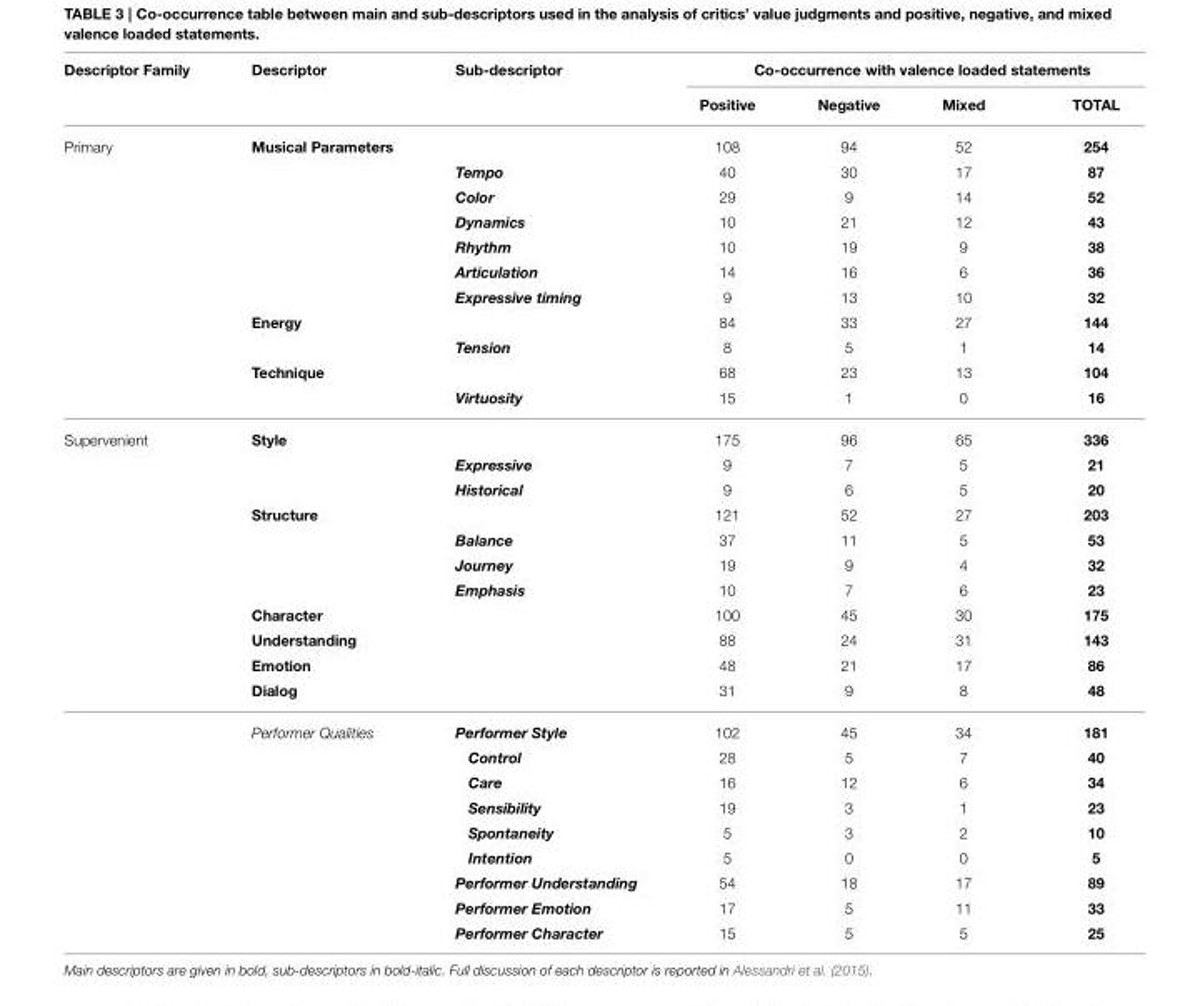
<table><thead><tr><td rowspan="2">Descriptor Family</td><td rowspan="2">Descriptor</td><td rowspan="2">Sub-descriptor</td><td colspan="4">Co-occurrence with valence loaded statements</td></tr><tr><td>Positive</td><td>Negative</td><td>Mixed</td><td>TOTAL</td></tr></thead><tbody><tr><td rowspan="11">Primary</td><td>Musical Parameters</td><td></td><td>108</td><td>94</td><td>52</td><td>254</td></tr><tr><td></td><td>Tempo</td><td>40</td><td>30</td><td>17</td><td>87</td></tr><tr><td></td><td>Color</td><td>29</td><td>9</td><td>14</td><td>52</td></tr><tr><td></td><td>Dynamics</td><td>10</td><td>21</td><td>12</td><td>43</td></tr><tr><td></td><td>Rhythm</td><td>10</td><td>19</td><td>9</td><td>38</td></tr><tr><td></td><td>Articulation</td><td>14</td><td>16</td><td>6</td><td>36</td></tr><tr><td></td><td>Expressive timing</td><td>9</td><td>13</td><td>10</td><td>32</td></tr><tr><td>Energy</td><td></td><td>84</td><td>33</td><td>27</td><td>144</td></tr><tr><td></td><td>Tension</td><td>8</td><td>5</td><td>1</td><td>14</td></tr><tr><td>Technique</td><td></td><td>68</td><td>23</td><td>13</td><td>104</td></tr><tr><td></td><td>Virtuosity</td><td>15</td><td>1</td><td>0</td><td>16</td></tr><tr><td rowspan="20">Supervenient</td><td>Style</td><td></td><td>175</td><td>96</td><td>65</td><td>336</td></tr><tr><td></td><td>Expressive</td><td>9</td><td>7</td><td>5</td><td>21</td></tr><tr><td></td><td>Historical</td><td>9</td><td>6</td><td>5</td><td>20</td></tr><tr><td>Structure</td><td></td><td>121</td><td>52</td><td>27</td><td>203</td></tr><tr><td></td><td>Balance</td><td>37</td><td>11</td><td>5</td><td>53</td></tr><tr><td></td><td>Journey</td><td>19</td><td>9</td><td>4</td><td>32</td></tr><tr><td></td><td>Emphasis</td><td>10</td><td>7</td><td>6</td><td>23</td></tr><tr><td>Character</td><td></td><td>100</td><td>45</td><td>30</td><td>175</td></tr><tr><td>Understanding</td><td></td><td>88</td><td>24</td><td>31</td><td>143</td></tr><tr><td>Emotion</td><td></td><td>48</td><td>21</td><td>17</td><td>86</td></tr><tr><td>Dialog</td><td></td><td>31</td><td>9</td><td>8</td><td>48</td></tr><tr><td>Performer Qualities</td><td>Performer Style</td><td>102</td><td>45</td><td>34</td><td>181</td></tr><tr><td></td><td>Control</td><td>28</td><td>5</td><td>7</td><td>40</td></tr><tr><td></td><td>Care</td><td>16</td><td>12</td><td>6</td><td>34</td></tr><tr><td></td><td>Sensibility</td><td>19</td><td>3</td><td>1</td><td>23</td></tr><tr><td></td><td>Spontaneity</td><td>5</td><td>3</td><td>2</td><td>10</td></tr><tr><td></td><td>Intention</td><td>5</td><td>0</td><td>0</td><td>5</td></tr><tr><td></td><td>Performer Understanding</td><td>54</td><td>18</td><td>17</td><td>89</td></tr><tr><td></td><td>Performer Emotion</td><td>17</td><td>5</td><td>11</td><td>33</td></tr><tr><td></td><td>Performer Character</td><td>15</td><td>5</td><td>5</td><td>25</td></tr></tbody></table>